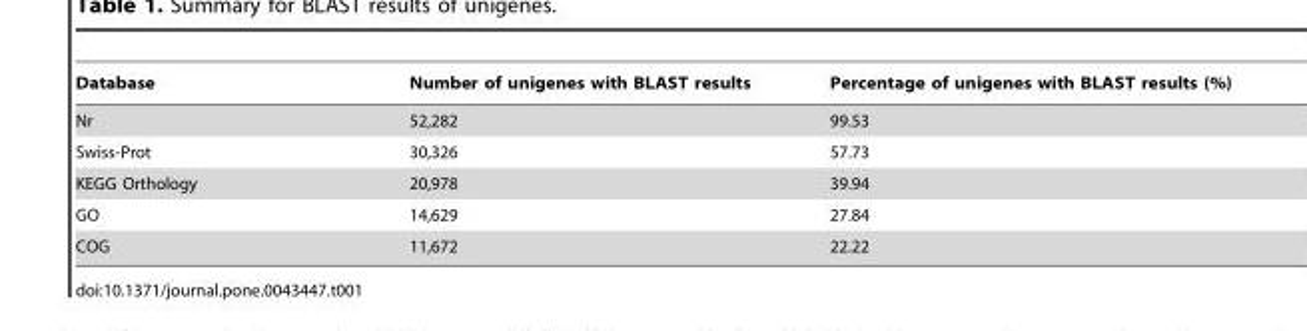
<table><thead><tr><td>Database</td><td>Number of unigenes with BLAST results</td><td>Percentage of unigenes with BLAST results (%)</td></tr></thead><tbody><tr><td>Nr</td><td>52,282</td><td>99.53</td></tr><tr><td>Swiss-Prot</td><td>30,326</td><td>57.73</td></tr><tr><td>KEGG Orthology</td><td>20,978</td><td>39.94</td></tr><tr><td>GO</td><td>14,629</td><td>27.84</td></tr><tr><td>COG</td><td>11,672</td><td>22.22</td></tr></tbody></table>